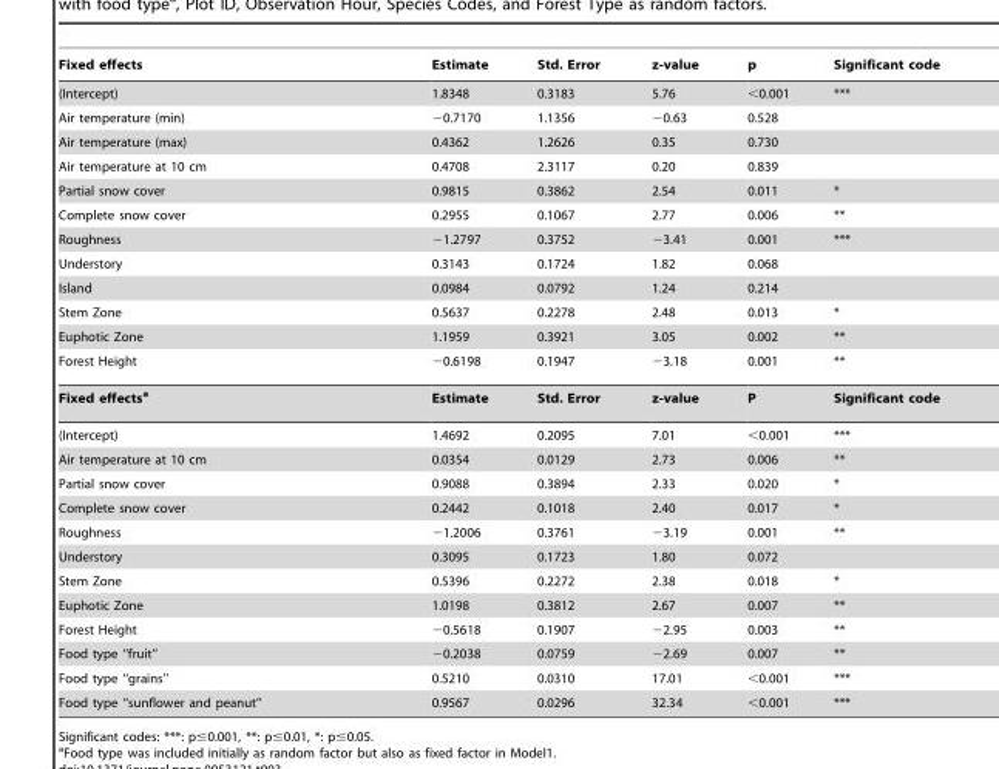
<table><thead><tr><td>Fixed effects</td><td>Estimate</td><td>Std. Error</td><td>z-value</td><td>p</td><td>Significant code</td></tr></thead><tbody><tr><td>(Intercept)</td><td>1.8348</td><td>0.3183</td><td>5.76</td><td>&lt;0.001</td><td>***</td></tr><tr><td>Air temperature (min)</td><td>−0.7170</td><td>1.1356</td><td>−0.63</td><td>0.528</td><td></td></tr><tr><td>Air temperature (max)</td><td>0.4362</td><td>1.2626</td><td>0.35</td><td>0.730</td><td></td></tr><tr><td>Air temperature at 10 cm</td><td>0.4708</td><td>2.3117</td><td>0.20</td><td>0.839</td><td></td></tr><tr><td>Partial snow cover</td><td>0.9815</td><td>0.3862</td><td>2.54</td><td>0.011</td><td>*</td></tr><tr><td>Complete snow cover</td><td>0.2955</td><td>0.1067</td><td>2.77</td><td>0.006</td><td>**</td></tr><tr><td>Roughness</td><td>−1.2797</td><td>0.3752</td><td>−3.41</td><td>0.001</td><td>***</td></tr><tr><td>Understory</td><td>0.3143</td><td>0.1724</td><td>1.82</td><td>0.068</td><td></td></tr><tr><td>Island</td><td>0.0984</td><td>0.0792</td><td>1.24</td><td>0.214</td><td></td></tr><tr><td>Stem Zone</td><td>0.5637</td><td>0.2278</td><td>2.48</td><td>0.013</td><td>*</td></tr><tr><td>Euphotic Zone</td><td>1.1959</td><td>0.3921</td><td>3.05</td><td>0.002</td><td>**</td></tr><tr><td>Forest Height</td><td>−0.6198</td><td>0.1947</td><td>−3.18</td><td>0.001</td><td>**</td></tr><tr><td>Fixed effectsa</td><td>Estimate</td><td>Std. Error</td><td>z-value</td><td>P</td><td>Significant code</td></tr><tr><td>(Intercept)</td><td>1.4692</td><td>0.2095</td><td>7.01</td><td>&lt;0.001</td><td>***</td></tr><tr><td>Air temperature at 10 cm</td><td>0.0354</td><td>0.0129</td><td>2.73</td><td>0.006</td><td>**</td></tr><tr><td>Partial snow cover</td><td>0.9088</td><td>0.3894</td><td>2.33</td><td>0.020</td><td>*</td></tr><tr><td>Complete snow cover</td><td>0.2442</td><td>0.1018</td><td>2.40</td><td>0.017</td><td>*</td></tr><tr><td>Roughness</td><td>−1.2006</td><td>0.3761</td><td>−3.19</td><td>0.001</td><td>**</td></tr><tr><td>Understory</td><td>0.3095</td><td>0.1723</td><td>1.80</td><td>0.072</td><td></td></tr><tr><td>Stem Zone</td><td>0.5396</td><td>0.2272</td><td>2.38</td><td>0.018</td><td>*</td></tr><tr><td>Euphotic Zone</td><td>1.0198</td><td>0.3812</td><td>2.67</td><td>0.007</td><td>**</td></tr><tr><td>Forest Height</td><td>−0.5618</td><td>0.1907</td><td>−2.95</td><td>0.003</td><td>**</td></tr><tr><td>Food type ‘‘fruit’’</td><td>−0.2038</td><td>0.0759</td><td>−2.69</td><td>0.007</td><td>**</td></tr><tr><td>Food type ‘‘grains’’</td><td>0.5210</td><td>0.0310</td><td>17.01</td><td>&lt;0.001</td><td>***</td></tr><tr><td>Food type ‘‘sunflower and peanut’’</td><td>0.9567</td><td>0.0296</td><td>32.34</td><td>&lt;0.001</td><td>***</td></tr></tbody></table>